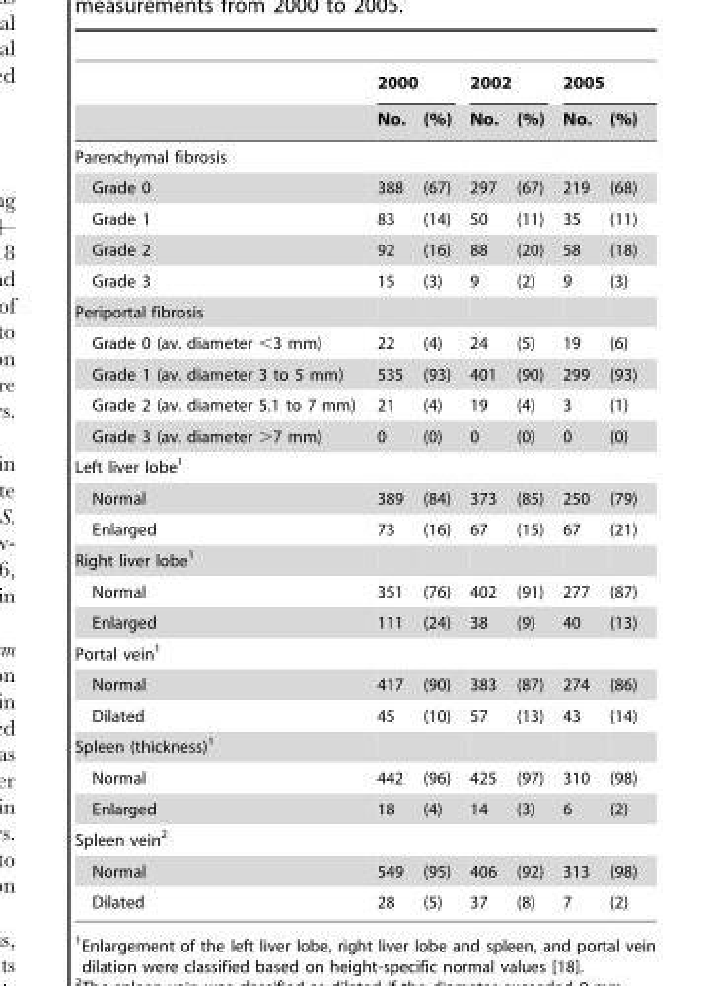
<table><thead><tr><td rowspan="2"></td><td colspan="2">2000</td><td colspan="2">2002</td><td colspan="2">2005</td></tr><tr><td>No.</td><td>(%)</td><td>No.</td><td>(%)</td><td>No.</td><td>(%)</td></tr></thead><tbody><tr><td colspan="7">Parenchymal fibrosis</td></tr><tr><td>Grade 0</td><td>388</td><td>(67)</td><td>297</td><td>(67)</td><td>219</td><td>(68)</td></tr><tr><td>Grade 1</td><td>83</td><td>(14)</td><td>50</td><td>(11)</td><td>35</td><td>(11)</td></tr><tr><td>Grade 2</td><td>92</td><td>(16)</td><td>88</td><td>(20)</td><td>58</td><td>(18)</td></tr><tr><td>Grade 3</td><td>15</td><td>(3)</td><td>9</td><td>(2)</td><td>9</td><td>(3)</td></tr><tr><td colspan="7">Periportal fibrosis</td></tr><tr><td>Grade 0 (av. diameter &lt;3 mm)</td><td>22</td><td>(4)</td><td>24</td><td>(5)</td><td>19</td><td>(6)</td></tr><tr><td>Grade 1 (av. diameter 3 to 5 mm)</td><td>535</td><td>(93)</td><td>401</td><td>(90)</td><td>299</td><td>(93)</td></tr><tr><td>Grade 2 (av. diameter 5.1 to 7 mm)</td><td>21</td><td>(4)</td><td>19</td><td>(4)</td><td>3</td><td>(1)</td></tr><tr><td>Grade 3 (av. diameter &gt;7 mm)</td><td>0</td><td>(0)</td><td>0</td><td>(0)</td><td>0</td><td>(0)</td></tr><tr><td colspan="7">Left liver lobe<sup>1</sup></td></tr><tr><td>Normal</td><td>389</td><td>(84)</td><td>373</td><td>(85)</td><td>250</td><td>(79)</td></tr><tr><td>Enlarged</td><td>73</td><td>(16)</td><td>67</td><td>(15)</td><td>67</td><td>(21)</td></tr><tr><td colspan="7">Right liver lobe<sup>1</sup></td></tr><tr><td>Normal</td><td>351</td><td>(76)</td><td>402</td><td>(91)</td><td>277</td><td>(87)</td></tr><tr><td>Enlarged</td><td>111</td><td>(24)</td><td>38</td><td>(9)</td><td>40</td><td>(13)</td></tr><tr><td colspan="7">Portal vein<sup>1</sup></td></tr><tr><td>Normal</td><td>417</td><td>(90)</td><td>383</td><td>(87)</td><td>274</td><td>(86)</td></tr><tr><td>Dilated</td><td>45</td><td>(10)</td><td>57</td><td>(13)</td><td>43</td><td>(14)</td></tr><tr><td colspan="7">Spleen (thickness)<sup>1</sup></td></tr><tr><td>Normal</td><td>442</td><td>(96)</td><td>425</td><td>(97)</td><td>310</td><td>(98)</td></tr><tr><td>Enlarged</td><td>18</td><td>(4)</td><td>14</td><td>(3)</td><td>6</td><td>(2)</td></tr><tr><td colspan="7">Spleen vein<sup>2</sup></td></tr><tr><td>Normal</td><td>549</td><td>(95)</td><td>406</td><td>(92)</td><td>313</td><td>(98)</td></tr><tr><td>Dilated</td><td>28</td><td>(5)</td><td>37</td><td>(8)</td><td>7</td><td>(2)</td></tr></tbody></table>